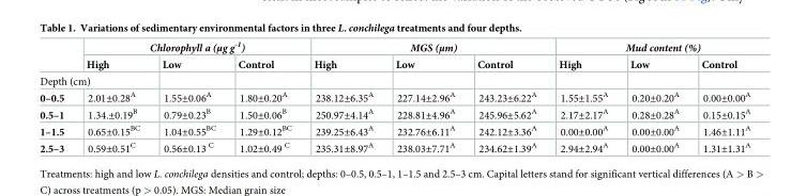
<table><thead><tr><td rowspan="2"></td><td colspan="3">Chlorophyll a (μg g<sup>-1</sup>)</td><td colspan="3">MGS (μm)</td><td colspan="3">Mud content (%)</td></tr><tr><td>High</td><td>Low</td><td>Control</td><td>High</td><td>Low</td><td>Control</td><td>High</td><td>Low</td><td>Control</td></tr></thead><tbody><tr><td colspan="10">Depth (cm)</td></tr><tr><td>0–0.5</td><td>2.01±0.28<sup>A</sup></td><td>1.55±0.06<sup>A</sup></td><td>1.80±0.20<sup>A</sup></td><td>238.12±6.35<sup>A</sup></td><td>227.14±2.96<sup>A</sup></td><td>243.23±6.22<sup>A</sup></td><td>1.55±1.55<sup>A</sup></td><td>0.20±0.20<sup>A</sup></td><td>0.00±0.00<sup>A</sup></td></tr><tr><td>0.5–1</td><td>1.34.±0.19<sup>B</sup></td><td>0.79±0.23<sup>B</sup></td><td>1.50±0.06<sup>B</sup></td><td>250.97±4.14<sup>A</sup></td><td>228.81±4.96<sup>A</sup></td><td>245.96±5.62<sup>A</sup></td><td>2.17±2.17<sup>A</sup></td><td>0.28±0.28<sup>A</sup></td><td>0.15±0.15<sup>A</sup></td></tr><tr><td>1–1.5</td><td>0.65±0.15<sup>BC</sup></td><td>1.04±0.55<sup>BC</sup></td><td>1.29±0.12<sup>BC</sup></td><td>239.25±6.43<sup>A</sup></td><td>232.76±6.11<sup>A</sup></td><td>242.12±3.36<sup>A</sup></td><td>0.00±0.00<sup>A</sup></td><td>0.00±0.00<sup>A</sup></td><td>1.46±1.11<sup>A</sup></td></tr><tr><td>2.5–3</td><td>0.59±0.51<sup>C</sup></td><td>0.56±0.13 <sup>C</sup></td><td>1.02±0.49 <sup>C</sup></td><td>235.31±8.97<sup>A</sup></td><td>238.03±7.71<sup>A</sup></td><td>234.62±1.39<sup>A</sup></td><td>2.94±2.94<sup>A</sup></td><td>0.00±0.00<sup>A</sup></td><td>1.31±1.31<sup>A</sup></td></tr></tbody></table>